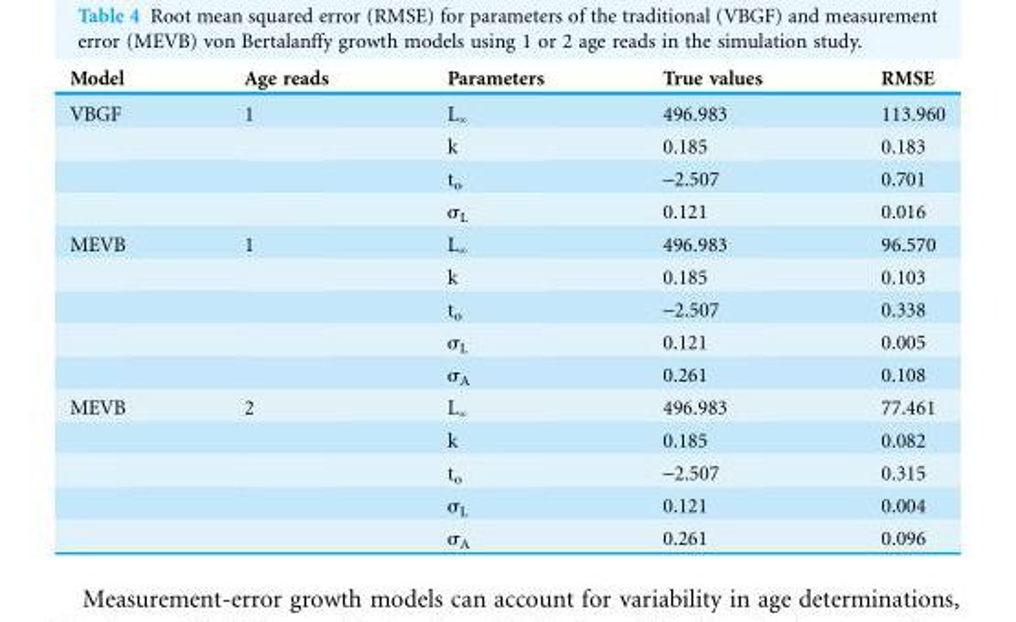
<table><thead><tr><td>Model</td><td>Age reads</td><td>Parameters</td><td>True values</td><td>RMSE</td></tr></thead><tbody><tr><td rowspan="4">VBGF</td><td>1</td><td>L<sub>∞</sub></td><td>496.983</td><td>113.960</td></tr><tr><td></td><td>k</td><td>0.185</td><td>0.183</td></tr><tr><td></td><td>t<sub>o</sub></td><td>-2.507</td><td>0.701</td></tr><tr><td></td><td>σ<sub>L</sub></td><td>0.121</td><td>0.016</td></tr><tr><td rowspan="5">MEVB</td><td>1</td><td>L<sub>∞</sub></td><td>496.983</td><td>96.570</td></tr><tr><td></td><td>k</td><td>0.185</td><td>0.103</td></tr><tr><td></td><td>t<sub>o</sub></td><td>-2.507</td><td>0.338</td></tr><tr><td></td><td>σ<sub>L</sub></td><td>0.121</td><td>0.005</td></tr><tr><td></td><td>σ<sub>A</sub></td><td>0.261</td><td>0.108</td></tr><tr><td rowspan="5">MEVB</td><td>2</td><td>L<sub>∞</sub></td><td>496.983</td><td>77.461</td></tr><tr><td></td><td>k</td><td>0.185</td><td>0.082</td></tr><tr><td></td><td>t<sub>o</sub></td><td>-2.507</td><td>0.315</td></tr><tr><td></td><td>σ<sub>L</sub></td><td>0.121</td><td>0.004</td></tr><tr><td></td><td>σ<sub>A</sub></td><td>0.261</td><td>0.096</td></tr></tbody></table>